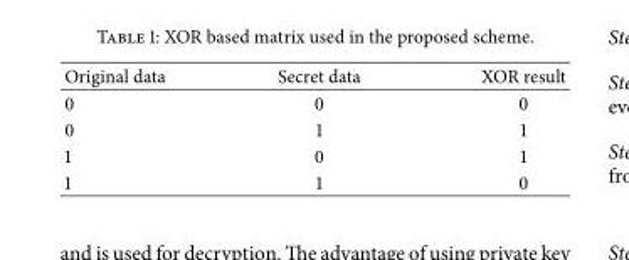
<table><thead><tr><td>Original data</td><td>Secret data</td><td>XOR result</td></tr></thead><tbody><tr><td>0</td><td>0</td><td>0</td></tr><tr><td>0</td><td>1</td><td>1</td></tr><tr><td>1</td><td>0</td><td>1</td></tr><tr><td>1</td><td>1</td><td>0</td></tr></tbody></table>